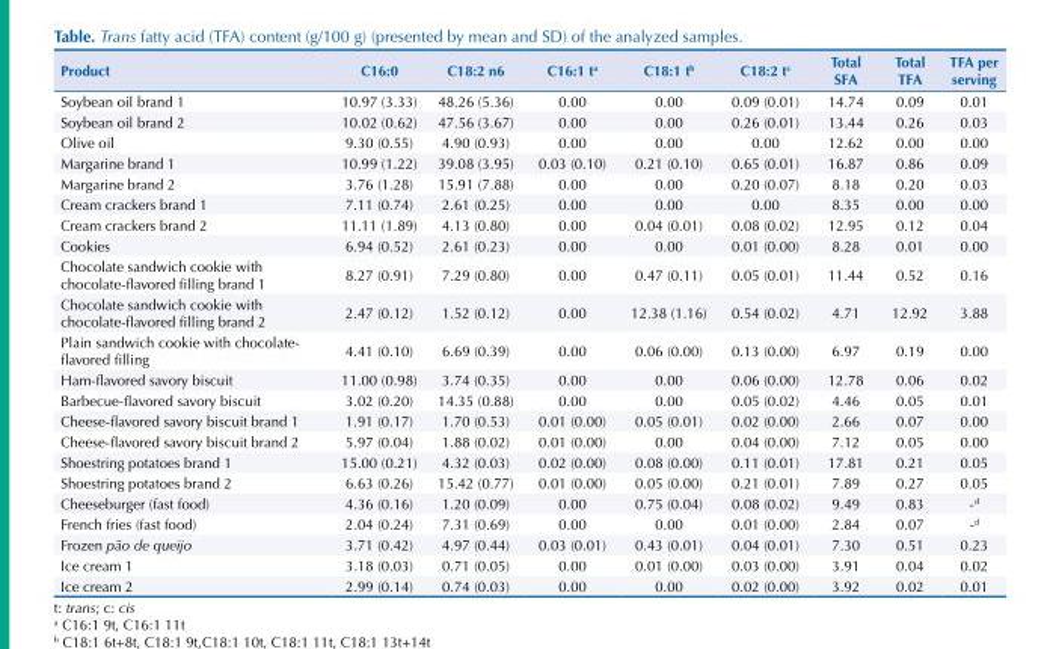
<table><thead><tr><td>Product</td><td>C16:0</td><td>C18:2 n6</td><td>C16:1 t<sup>a</sup></td><td>C18:1 t<sup>b</sup></td><td>C18:2 t<sup>c</sup></td><td>Total SFA</td><td>Total TFA</td><td>TFA per serving</td></tr></thead><tbody><tr><td>Soybean oil brand 1</td><td>10.97 (3.33)</td><td>48.26 (5.36)</td><td>0.00</td><td>0.00</td><td>0.09 (0.01)</td><td>14.74</td><td>0.09</td><td>0.01</td></tr><tr><td>Soybean oil brand 2</td><td>10.02 (0.62)</td><td>47.56 (3.67)</td><td>0.00</td><td>0.00</td><td>0.26 (0.01)</td><td>13.44</td><td>0.26</td><td>0.03</td></tr><tr><td>Olive oil</td><td>9.30 (0.55)</td><td>4.90 (0.93)</td><td>0.00</td><td>0.00</td><td>0.00</td><td>12.62</td><td>0.00</td><td>0.00</td></tr><tr><td>Margarine brand 1</td><td>10.99 (1.22)</td><td>39.08 (3.95)</td><td>0.03 (0.10)</td><td>0.21 (0.10)</td><td>0.65 (0.01)</td><td>16.87</td><td>0.86</td><td>0.09</td></tr><tr><td>Margarine brand 2</td><td>3.76 (1.28)</td><td>15.91 (7.88)</td><td>0.00</td><td>0.00</td><td>0.20 (0.07)</td><td>8.18</td><td>0.20</td><td>0.03</td></tr><tr><td>Cream crackers brand 1</td><td>7.11 (0.74)</td><td>2.61 (0.25)</td><td>0.00</td><td>0.00</td><td>0.00</td><td>8.35</td><td>0.00</td><td>0.00</td></tr><tr><td>Cream crackers brand 2</td><td>11.11 (1.89)</td><td>4.13 (0.80)</td><td>0.00</td><td>0.04 (0.01)</td><td>0.08 (0.02)</td><td>12.95</td><td>0.12</td><td>0.04</td></tr><tr><td>Cookies</td><td>6.94 (0.52)</td><td>2.61 (0.23)</td><td>0.00</td><td>0.00</td><td>0.01 (0.00)</td><td>8.28</td><td>0.01</td><td>0.00</td></tr><tr><td>Chocolate sandwich cookie with chocolate-flavored filling brand 1</td><td>8.27 (0.91)</td><td>7.29 (0.80)</td><td>0.00</td><td>0.47 (0.11)</td><td>0.05 (0.01)</td><td>11.44</td><td>0.52</td><td>0.16</td></tr><tr><td>Chocolate sandwich cookie with chocolate-flavored filling brand 2</td><td>2.47 (0.12)</td><td>1.52 (0.12)</td><td>0.00</td><td>12.38 (1.16)</td><td>0.54 (0.02)</td><td>4.71</td><td>12.92</td><td>3.88</td></tr><tr><td>Plain sandwich cookie with chocolate- flavored filling</td><td>4.41 (0.10)</td><td>6.69 (0.39)</td><td>0.00</td><td>0.06 (0.00)</td><td>0.13 (0.00)</td><td>6.97</td><td>0.19</td><td>0.00</td></tr><tr><td>Ham-flavored savory biscuit</td><td>11.00 (0.98)</td><td>3.74 (0.35)</td><td>0.00</td><td>0.00</td><td>0.06 (0.00)</td><td>12.78</td><td>0.06</td><td>0.02</td></tr><tr><td>Barbecue-flavored savory biscuit</td><td>3.02 (0.20)</td><td>14.35 (0.88)</td><td>0.00</td><td>0.00</td><td>0.05 (0.02)</td><td>4.46</td><td>0.05</td><td>0.01</td></tr><tr><td>Cheese-flavored savory biscuit brand 1</td><td>1.91 (0.17)</td><td>1.70 (0.53)</td><td>0.01 (0.00)</td><td>0.05 (0.01)</td><td>0.02 (0.00)</td><td>2.66</td><td>0.07</td><td>0.00</td></tr><tr><td>Cheese-flavored savory biscuit brand 2</td><td>5.97 (0.04)</td><td>1.88 (0.02)</td><td>0.01 (0.00)</td><td>0.00</td><td>0.04 (0.00)</td><td>7.12</td><td>0.05</td><td>0.00</td></tr><tr><td>Shoestring potatoes brand 1</td><td>15.00 (0.21)</td><td>4.32 (0.03)</td><td>0.02 (0.00)</td><td>0.08 (0.00)</td><td>0.11 (0.01)</td><td>17.81</td><td>0.21</td><td>0.05</td></tr><tr><td>Shoestring potatoes brand 2</td><td>6.63 (0.26)</td><td>15.42 (0.77)</td><td>0.01 (0.00)</td><td>0.05 (0.00)</td><td>0.21 (0.01)</td><td>7.89</td><td>0.27</td><td>0.05</td></tr><tr><td>Cheeseburger (fast food)</td><td>4.36 (0.16)</td><td>1.20 (0.09)</td><td>0.00</td><td>0.75 (0.04)</td><td>0.08 (0.02)</td><td>9.49</td><td>0.83</td><td>-<sup>d</sup></td></tr><tr><td>French fries (fast food)</td><td>2.04 (0.24)</td><td>7.31 (0.69)</td><td>0.00</td><td>0.00</td><td>0.01 (0.00)</td><td>2.84</td><td>0.07</td><td>-<sup>d</sup></td></tr><tr><td>Frozen pão de queijo</td><td>3.71 (0.42)</td><td>4.97 (0.44)</td><td>0.03 (0.01)</td><td>0.43 (0.01)</td><td>0.04 (0.01)</td><td>7.30</td><td>0.51</td><td>0.23</td></tr><tr><td>Ice cream 1</td><td>3.18 (0.03)</td><td>0.71 (0.05)</td><td>0.00</td><td>0.01 (0.00)</td><td>0.03 (0.00)</td><td>3.91</td><td>0.04</td><td>0.02</td></tr><tr><td>Ice cream 2</td><td>2.99 (0.14)</td><td>0.74 (0.03)</td><td>0.00</td><td>0.00</td><td>0.02 (0.00)</td><td>3.92</td><td>0.02</td><td>0.01</td></tr></tbody></table>